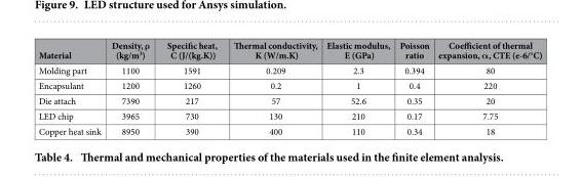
<table><thead><tr><td>Material</td><td>Density, ρ (kg/m<sup>3</sup>)</td><td>Specific heat, C (J/(kg.K))</td><td>Thermal conductivity, K (W/m.K)</td><td>Elastic modulus, E (GPa)</td><td>Poisson ratio</td><td>Coefficient of thermal expansion, α, CTE (e-6/°C)</td></tr></thead><tbody><tr><td>Molding part</td><td>1100</td><td>1591</td><td>0.209</td><td>2.3</td><td>0.394</td><td>80</td></tr><tr><td>Encapsulant</td><td>1200</td><td>1260</td><td>0.2</td><td>1</td><td>0.4</td><td>220</td></tr><tr><td>Die attach</td><td>7390</td><td>217</td><td>57</td><td>52.6</td><td>0.35</td><td>20</td></tr><tr><td>LED chip</td><td>3965</td><td>730</td><td>130</td><td>210</td><td>0.17</td><td>7.75</td></tr><tr><td>Copper heat sink</td><td>8950</td><td>390</td><td>400</td><td>110</td><td>0.34</td><td>18</td></tr></tbody></table>